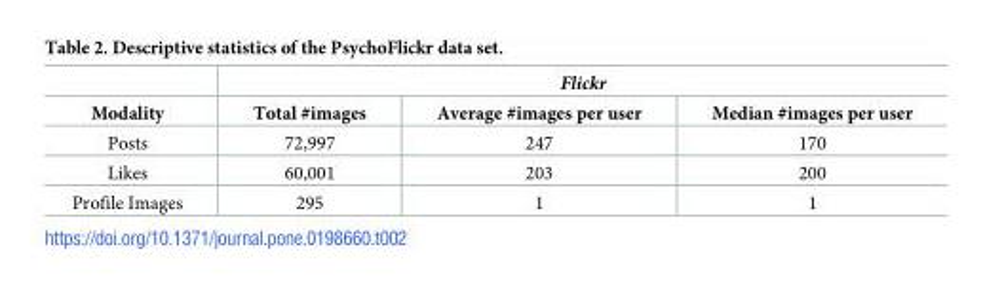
<table><thead><tr><td rowspan="2">Modality</td><td colspan="3">Flickr</td></tr><tr><td>Total #images</td><td>Average #images per user</td><td>Median #images per user</td></tr></thead><tbody><tr><td>Posts</td><td>72,997</td><td>247</td><td>170</td></tr><tr><td>Likes</td><td>60,001</td><td>203</td><td>200</td></tr><tr><td>Profile Images</td><td>295</td><td>1</td><td>1</td></tr></tbody></table>